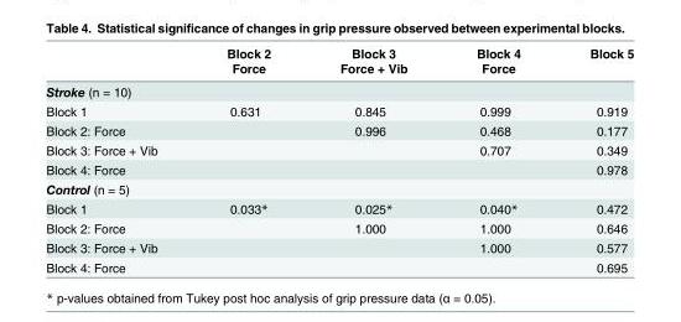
<table><thead><tr><td rowspan="2"></td><td rowspan="2">Block 2 Force</td><td rowspan="2">Block 3 Force + Vib</td><td rowspan="2">Block 4 Force</td><td rowspan="2">Block 5</td></tr><tr></tr></thead><tbody><tr><td colspan="5">Stroke (n = 10)</td></tr><tr><td>Block 1</td><td>0.631</td><td>0.845</td><td>0.999</td><td>0.919</td></tr><tr><td>Block 2: Force</td><td></td><td>0.996</td><td>0.468</td><td>0.177</td></tr><tr><td>Block 3: Force + Vib</td><td></td><td></td><td>0.707</td><td>0.349</td></tr><tr><td>Block 4: Force</td><td></td><td></td><td></td><td>0.978</td></tr><tr><td colspan="5">Control (n = 5)</td></tr><tr><td>Block 1</td><td>0.033*</td><td>0.025*</td><td>0.040*</td><td>0.472</td></tr><tr><td>Block 2: Force</td><td></td><td>1.000</td><td>1.000</td><td>0.646</td></tr><tr><td>Block 3: Force + Vib</td><td></td><td></td><td>1.000</td><td>0.577</td></tr><tr><td>Block 4: Force</td><td></td><td></td><td></td><td>0.695</td></tr></tbody></table>